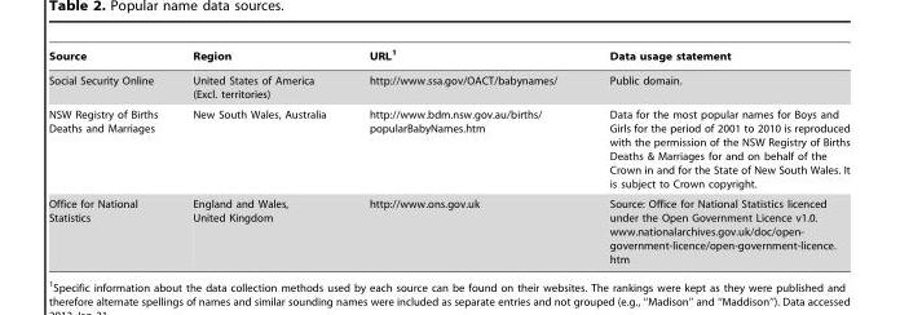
<table><thead><tr><td>Source</td><td>Region</td><td>URL<sup>1</sup></td><td>Data usage statement</td></tr></thead><tbody><tr><td>Social Security Online</td><td>United States of America (Excl. territories)</td><td>http://www.ssa.gov/OACT/babynames/</td><td>Public domain.</td></tr><tr><td>NSW Registry of Births Deaths and Marriages</td><td>New South Wales, Australia</td><td>http://www.bdm.nsw.gov.au/births/ popularBabyNames.htm</td><td>Data for the most popular names for Boys and Girls for the period of 2001 to 2010 is reproduced with the permission of the NSW Registry of Births Deaths &amp; Marriages for and on behalf of the Crown in and for the State of New South Wales. It is subject to Crown copyright.</td></tr><tr><td>Office for National Statistics</td><td>England and Wales, United Kingdom</td><td>http://www.ons.gov.uk</td><td>Source: Office for National Statistics licenced under the Open Government Licence v1.0. www.nationalarchives.gov.uk/doc/open- government-licence/open-government-licence. htm</td></tr></tbody></table>